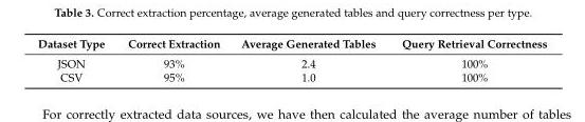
<table><thead><tr><td>Dataset Type</td><td>Correct Extraction</td><td>Average Generated Tables</td><td>Query Retrieval Correctness</td></tr></thead><tbody><tr><td>JSON</td><td>93%</td><td>2.4</td><td>100%</td></tr><tr><td>CSV</td><td>95%</td><td>1.0</td><td>100%</td></tr></tbody></table>